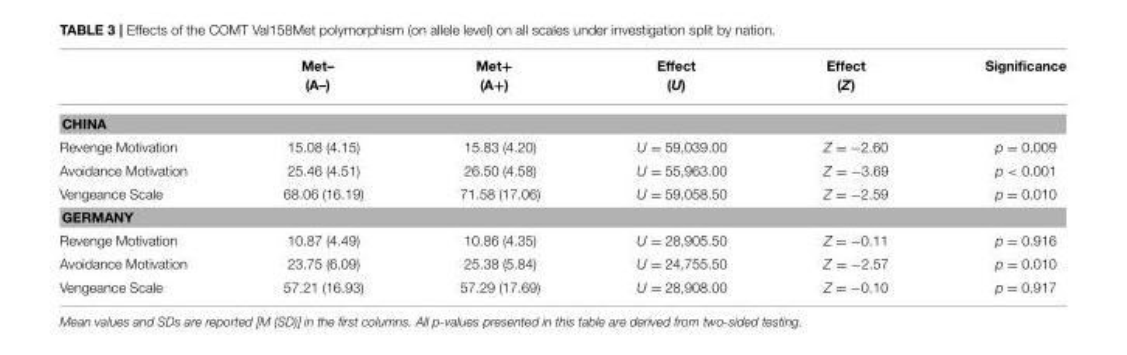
<table><thead><tr><td></td><td>Met– (A–)</td><td>Met+ (A+)</td><td>Effect (U)</td><td>Effect (Z)</td><td>Significance</td></tr></thead><tbody><tr><td colspan="6">CHINA</td></tr><tr><td>Revenge Motivation</td><td>15.08 (4.15)</td><td>15.83 (4.20)</td><td>U = 59,039.00</td><td>Z = −2.60</td><td>p = 0.009</td></tr><tr><td>Avoidance Motivation</td><td>25.46 (4.51)</td><td>26.50 (4.58)</td><td>U = 55,963.00</td><td>Z = −3.69</td><td>p &lt; 0.001</td></tr><tr><td>Vengeance Scale</td><td>68.06 (16.19)</td><td>71.58 (17.06)</td><td>U = 59,058.50</td><td>Z = −2.59</td><td>p = 0.010</td></tr><tr><td colspan="6">GERMANY</td></tr><tr><td>Revenge Motivation</td><td>10.87 (4.49)</td><td>10.86 (4.35)</td><td>U = 28,905.50</td><td>Z = −0.11</td><td>p = 0.916</td></tr><tr><td>Avoidance Motivation</td><td>23.75 (6.09)</td><td>25.38 (5.84)</td><td>U = 24,755.50</td><td>Z = −2.57</td><td>p = 0.010</td></tr><tr><td>Vengeance Scale</td><td>57.21 (16.93)</td><td>57.29 (17.69)</td><td>U = 28,908.00</td><td>Z = −0.10</td><td>p = 0.917</td></tr></tbody></table>